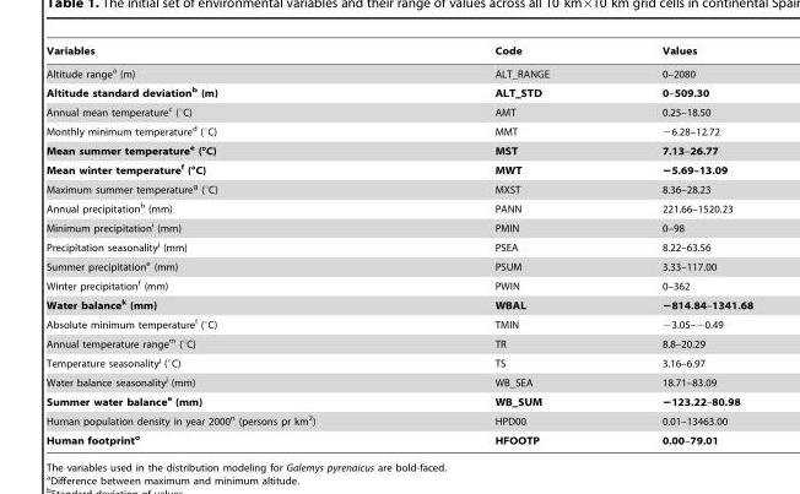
<table><thead><tr><td>Variables</td><td>Code</td><td>Values</td></tr></thead><tbody><tr><td>Altitude range<sup>a</sup> (m)</td><td>ALT_RANGE</td><td>0–2080</td></tr><tr><td>Altitude standard deviationb (m)</td><td>ALT__STD</td><td>0–509.30</td></tr><tr><td>Annual mean temperature<sup>c</sup> (°C)</td><td>AMT</td><td>0.25–18.50</td></tr><tr><td>Monthly minimum temperature<sup>d</sup> (°C)</td><td>MMT</td><td>−6.28–12.72</td></tr><tr><td>Mean summer temperaturee (°C)</td><td>MST</td><td>7.13–26.77</td></tr><tr><td>Mean winter temperaturef (°C)</td><td>MWT</td><td>−5.69–13.09</td></tr><tr><td>Maximum summer temperature<sup>g</sup> (°C)</td><td>MXST</td><td>8.36–28.23</td></tr><tr><td>Annual precipitation<sup>h</sup> (mm)</td><td>PANN</td><td>221.66–1520.23</td></tr><tr><td>Minimum precipitation<sup>i</sup> (mm)</td><td>PMIN</td><td>0–98</td></tr><tr><td>Precipitation seasonality<sup>j</sup> (mm)</td><td>PSEA</td><td>8.22–63.56</td></tr><tr><td>Summer precipitation<sup>e</sup> (mm)</td><td>PSUM</td><td>3.33–117.00</td></tr><tr><td>Winter precipitation<sup>f</sup> (mm)</td><td>PWIN</td><td>0–362</td></tr><tr><td>Water balancek (mm)</td><td>WBAL</td><td>−814.84–1341.68</td></tr><tr><td>Absolute minimum temperature<sup>l</sup> (°C)</td><td>TMIN</td><td>−3.05–−0.49</td></tr><tr><td>Annual temperature range<sup>m</sup> (°C)</td><td>TR</td><td>8.8–20.29</td></tr><tr><td>Temperature seasonality<sup>j</sup> (°C)</td><td>TS</td><td>3.16–6.97</td></tr><tr><td>Water balance seasonality<sup>j</sup> (mm)</td><td>WB_SEA</td><td>18.71–83.09</td></tr><tr><td>Summer water balancee (mm)</td><td>WB__SUM</td><td>−123.22–80.98</td></tr><tr><td>Human population density in year 2000<sup>n</sup> (persons pr km<sup>2</sup>)</td><td>HPD00</td><td>0.01–13463.00</td></tr><tr><td>Human footprinto</td><td>HFOOTP</td><td>0.00–79.01</td></tr></tbody></table>